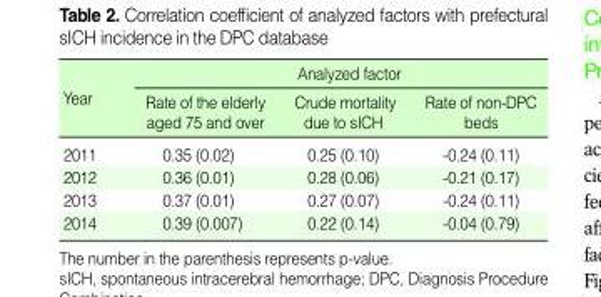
<table><thead><tr><td rowspan="2">Year</td><td colspan="3">Analyzed factor</td></tr><tr><td>Rate of the elderly aged 75 and over</td><td>Crude mortality due to sICH</td><td>Rate of non-DPC beds</td></tr></thead><tbody><tr><td>2011</td><td>0.35 (0.02)</td><td>0.25 (0.10)</td><td>-0.24 (0.11)</td></tr><tr><td>2012</td><td>0.36 (0.01)</td><td>0.28 (0.06)</td><td>-0.21 (0.17)</td></tr><tr><td>2013</td><td>0.37 (0.01)</td><td>0.27 (0.07)</td><td>-0.24 (0.11)</td></tr><tr><td>2014</td><td>0.39 (0.007)</td><td>0.22 (0.14)</td><td>-0.04 (0.79)</td></tr></tbody></table>